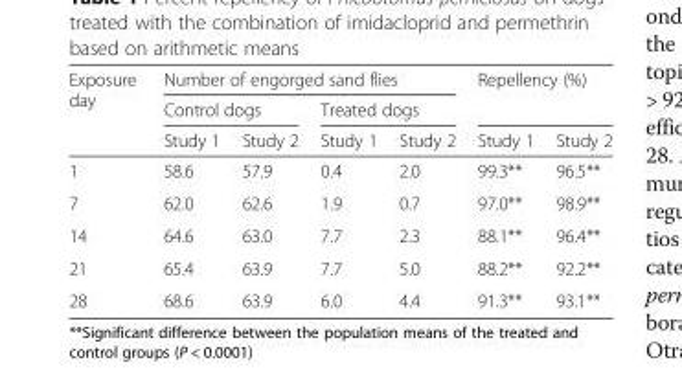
<table><thead><tr><td rowspan="3">Exposure day</td><td colspan="4">Number of engorged sand flies</td><td rowspan="2" colspan="2">Repellency (%)</td></tr><tr><td colspan="2">Control dogs</td><td colspan="2">Treated dogs</td></tr><tr><td>Study 1</td><td>Study 2</td><td>Study 1</td><td>Study 2</td><td>Study 1</td><td>Study 2</td></tr></thead><tbody><tr><td>1</td><td>58.6</td><td>57.9</td><td>0.4</td><td>2.0</td><td>99.3**</td><td>96.5**</td></tr><tr><td>7</td><td>62.0</td><td>62.6</td><td>1.9</td><td>0.7</td><td>97.0**</td><td>98.9**</td></tr><tr><td>14</td><td>64.6</td><td>63.0</td><td>7.7</td><td>2.3</td><td>88.1**</td><td>96.4**</td></tr><tr><td>21</td><td>65.4</td><td>63.9</td><td>7.7</td><td>5.0</td><td>88.2**</td><td>92.2**</td></tr><tr><td>28</td><td>68.6</td><td>63.9</td><td>6.0</td><td>4.4</td><td>91.3**</td><td>93.1**</td></tr></tbody></table>